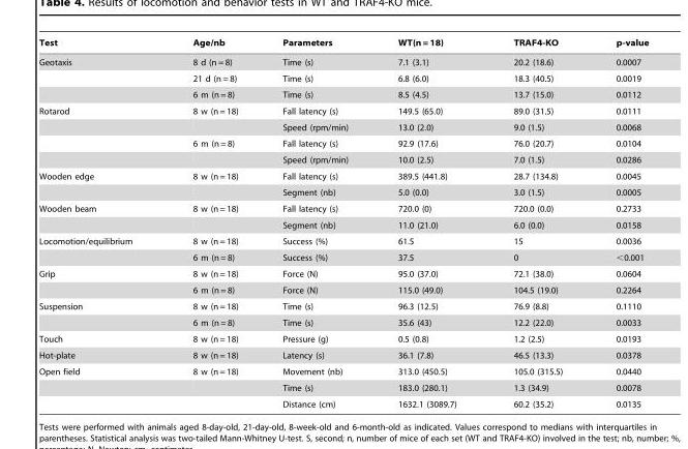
<table><thead><tr><td>Test</td><td>Age/nb</td><td>Parameters</td><td>WT(n = 18)</td><td>TRAF4-KO</td><td>p-value</td></tr></thead><tbody><tr><td rowspan="3">Geotaxis</td><td>8 d (n = 8)</td><td>Time (s)</td><td>7.1 (3.1)</td><td>20.2 (18.6)</td><td>0.0007</td></tr><tr><td>21 d (n = 8)</td><td>Time (s)</td><td>6.8 (6.0)</td><td>18.3 (40.5)</td><td>0.0019</td></tr><tr><td>6 m (n = 8)</td><td>Time (s)</td><td>8.5 (4.5)</td><td>13.7 (15.0)</td><td>0.0112</td></tr><tr><td rowspan="4">Rotarod</td><td>8 w (n = 18)</td><td>Fall latency (s)</td><td>149.5 (65.0)</td><td>89.0 (31.5)</td><td>0.0111</td></tr><tr><td></td><td>Speed (rpm/min)</td><td>13.0 (2.0)</td><td>9.0 (1.5)</td><td>0.0068</td></tr><tr><td>6 m (n = 8)</td><td>Fall latency (s)</td><td>92.9 (17.6)</td><td>76.0 (20.7)</td><td>0.0104</td></tr><tr><td></td><td>Speed (rpm/min)</td><td>10.0 (2.5)</td><td>7.0 (1.5)</td><td>0.0286</td></tr><tr><td rowspan="2">Wooden edge</td><td>8 w (n = 18)</td><td>Fall latency (s)</td><td>389.5 (441.8)</td><td>28.7 (134.8)</td><td>0.0045</td></tr><tr><td></td><td>Segment (nb)</td><td>5.0 (0.0)</td><td>3.0 (1.5)</td><td>0.0005</td></tr><tr><td rowspan="2">Wooden beam</td><td>8 w (n = 18)</td><td>Fall latency (s)</td><td>720.0 (0)</td><td>720.0 (0.0)</td><td>0.2733</td></tr><tr><td></td><td>Segment (nb)</td><td>11.0 (21.0)</td><td>6.0 (0.0)</td><td>0.0158</td></tr><tr><td rowspan="2">Locomotion/equilibrium</td><td>8 w (n = 18)</td><td>Success (%)</td><td>61.5</td><td>15</td><td>0.0036</td></tr><tr><td>6 m (n = 8)</td><td>Success (%)</td><td>37.5</td><td>0</td><td>&lt;0.001</td></tr><tr><td rowspan="2">Grip</td><td>8 w (n = 18)</td><td>Force (N)</td><td>95.0 (37.0)</td><td>72.1 (38.0)</td><td>0.0604</td></tr><tr><td>6 m (n = 8)</td><td>Force (N)</td><td>115.0 (49.0)</td><td>104.5 (19.0)</td><td>0.2264</td></tr><tr><td rowspan="2">Suspension</td><td>8 w (n = 18)</td><td>Time (s)</td><td>96.3 (12.5)</td><td>76.9 (8.8)</td><td>0.1110</td></tr><tr><td>6 m (n = 8)</td><td>Time (s)</td><td>35.6 (43)</td><td>12.2 (22.0)</td><td>0.0033</td></tr><tr><td>Touch</td><td>8 w (n = 18)</td><td>Pressure (g)</td><td>0.5 (0.8)</td><td>1.2 (2.5)</td><td>0.0193</td></tr><tr><td>Hot-plate</td><td>8 w (n = 18)</td><td>Latency (s)</td><td>36.1 (7.8)</td><td>46.5 (13.3)</td><td>0.0378</td></tr><tr><td rowspan="3">Open field</td><td>8 w (n = 18)</td><td>Movement (nb)</td><td>313.0 (450.5)</td><td>105.0 (315.5)</td><td>0.0440</td></tr><tr><td></td><td>Time (s)</td><td>183.0 (280.1)</td><td>1.3 (34.9)</td><td>0.0078</td></tr><tr><td></td><td>Distance (cm)</td><td>1632.1 (3089.7)</td><td>60.2 (35.2)</td><td>0.0135</td></tr></tbody></table>